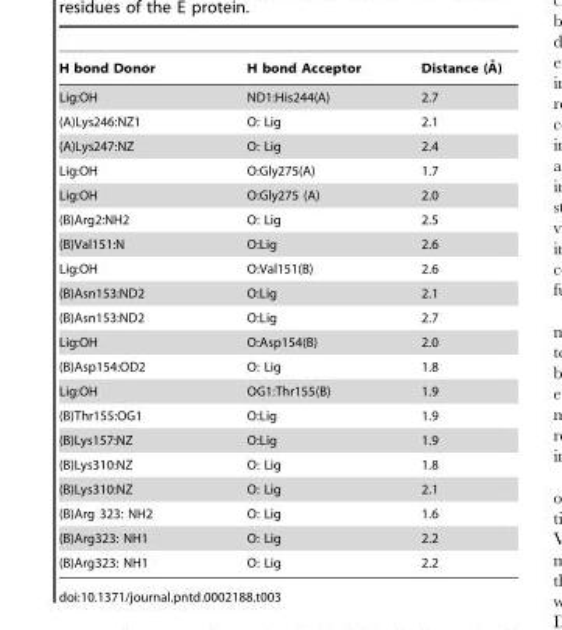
<table><thead><tr><td>H bond Donor</td><td>H bond Acceptor</td><td>Distance (A˚ )</td></tr></thead><tbody><tr><td>Lig:OH</td><td>ND1:His244(A)</td><td>2.7</td></tr><tr><td>(A)Lys246:NZ1</td><td>O: Lig</td><td>2.1</td></tr><tr><td>(A)Lys247:NZ</td><td>O: Lig</td><td>2.4</td></tr><tr><td>Lig:OH</td><td>O:Gly275(A)</td><td>1.7</td></tr><tr><td>Lig:OH</td><td>O:Gly275 (A)</td><td>2.0</td></tr><tr><td>(B)Arg2:NH2</td><td>O: Lig</td><td>2.5</td></tr><tr><td>(B)Val151:N</td><td>O:Lig</td><td>2.6</td></tr><tr><td>Lig:OH</td><td>O:Val151(B)</td><td>2.6</td></tr><tr><td>(B)Asn153:ND2</td><td>O:Lig</td><td>2.1</td></tr><tr><td>(B)Asn153:ND2</td><td>O:Lig</td><td>2.7</td></tr><tr><td>Lig:OH</td><td>O:Asp154(B)</td><td>2.0</td></tr><tr><td>(B)Asp154:OD2</td><td>O: Lig</td><td>1.8</td></tr><tr><td>Lig:OH</td><td>OG1:Thr155(B)</td><td>1.9</td></tr><tr><td>(B)Thr155:OG1</td><td>O:Lig</td><td>1.9</td></tr><tr><td>(B)Lys157:NZ</td><td>O:Lig</td><td>1.9</td></tr><tr><td>(B)Lys310:NZ</td><td>O: Lig</td><td>1.8</td></tr><tr><td>(B)Lys310:NZ</td><td>O: Lig</td><td>2.1</td></tr><tr><td>(B)Arg 323: NH2</td><td>O: Lig</td><td>1.6</td></tr><tr><td>(B)Arg323: NH1</td><td>O: Lig</td><td>2.2</td></tr><tr><td>(B)Arg323: NH1</td><td>O: Lig</td><td>2.2</td></tr></tbody></table>